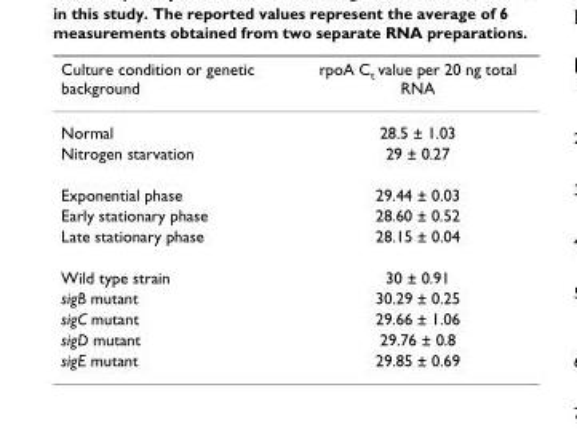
<table><thead><tr><td>Culture condition or genetic background</td><td>rpoA Ct value per 20 ng total RNA</td></tr></thead><tbody><tr><td>Normal</td><td>28.5 ± 1.03</td></tr><tr><td>Nitrogen starvation</td><td>29 ± 0.27</td></tr><tr><td>Exponential phase</td><td>29.44 ± 0.03</td></tr><tr><td>Early stationary phase</td><td>28.60 ± 0.52</td></tr><tr><td>Late stationary phase</td><td>28.15 ± 0.04</td></tr><tr><td>Wild type strain</td><td>30 ± 0.91</td></tr><tr><td>sigB mutant</td><td>30.29 ± 0.25</td></tr><tr><td>sigC mutant</td><td>29.66 ± 1.06</td></tr><tr><td>sigD mutant</td><td>29.76 ± 0.8</td></tr><tr><td>sigE mutant</td><td>29.85 ± 0.69</td></tr></tbody></table>